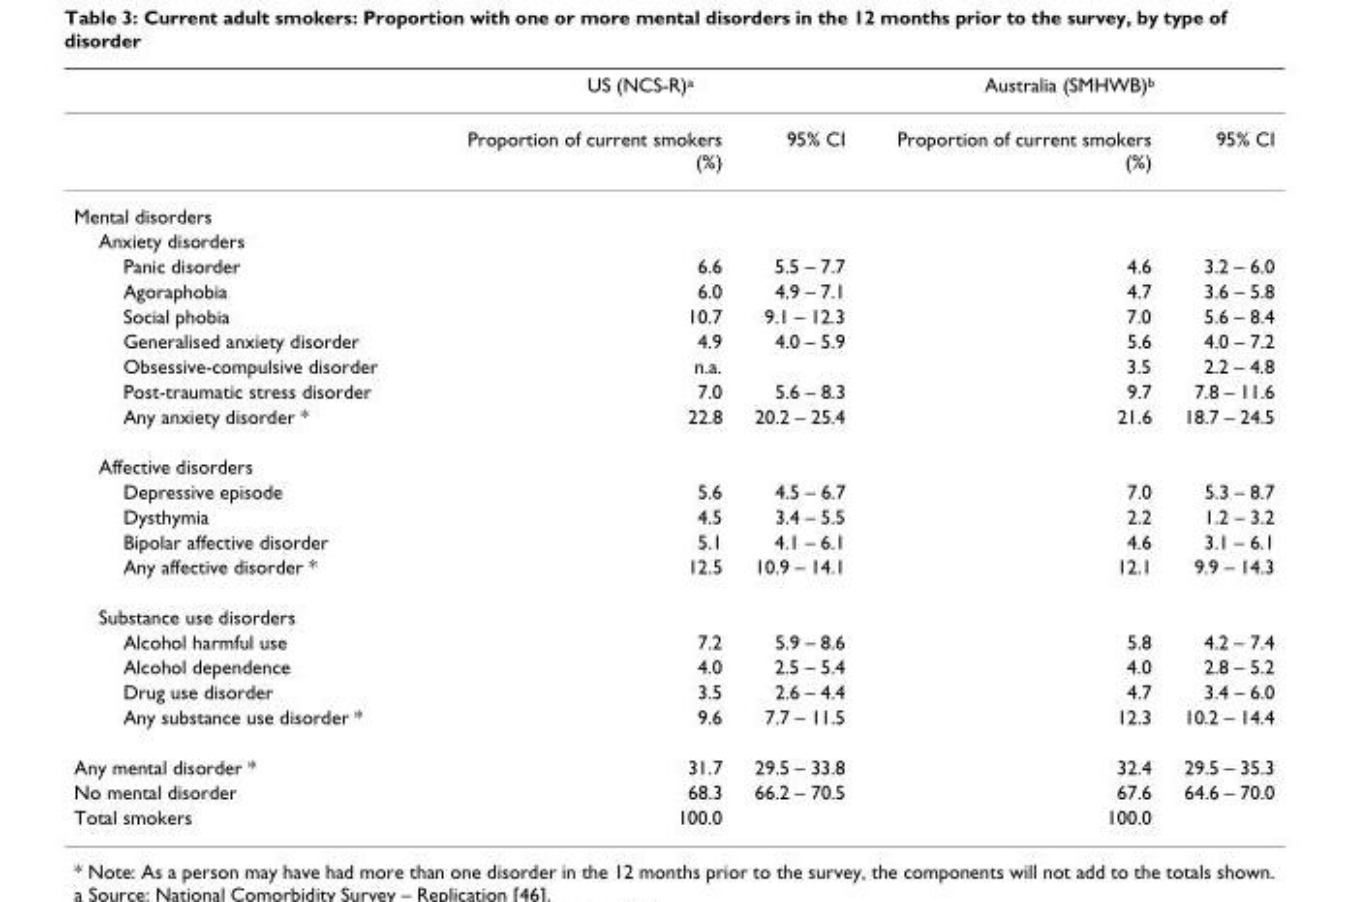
<table><thead><tr><td rowspan="2"></td><td colspan="2">US (NCS-R)<sup>a</sup></td><td colspan="2">Australia (SMHWB)<sup>b</sup></td></tr><tr><td>Proportion of current smokers (%)</td><td>95% CI</td><td>Proportion of current smokers (%)</td><td>95% CI</td></tr></thead><tbody><tr><td colspan="5">Mental disorders</td></tr><tr><td colspan="5">Anxiety disorders</td></tr><tr><td>Panic disorder</td><td>6.6</td><td>5.5 – 7.7</td><td>4.6</td><td>3.2 – 6.0</td></tr><tr><td>Agoraphobia</td><td>6.0</td><td>4.9 – 7.1</td><td>4.7</td><td>3.6 – 5.8</td></tr><tr><td>Social phobia</td><td>10.7</td><td>9.1 – 12.3</td><td>7.0</td><td>5.6 – 8.4</td></tr><tr><td>Generalised anxiety disorder</td><td>4.9</td><td>4.0 – 5.9</td><td>5.6</td><td>4.0 – 7.2</td></tr><tr><td>Obsessive-compulsive disorder</td><td>n.a.</td><td></td><td>3.5</td><td>2.2 – 4.8</td></tr><tr><td>Post-traumatic stress disorder</td><td>7.0</td><td>5.6 – 8.3</td><td>9.7</td><td>7.8 – 11.6</td></tr><tr><td>Any anxiety disorder *</td><td>22.8</td><td>20.2 – 25.4</td><td>21.6</td><td>18.7 – 24.5</td></tr><tr><td colspan="5">Affective disorders</td></tr><tr><td>Depressive episode</td><td>5.6</td><td>4.5 – 6.7</td><td>7.0</td><td>5.3 – 8.7</td></tr><tr><td>Dysthymia</td><td>4.5</td><td>3.4 – 5.5</td><td>2.2</td><td>1.2 – 3.2</td></tr><tr><td>Bipolar affective disorder</td><td>5.1</td><td>4.1 – 6.1</td><td>4.6</td><td>3.1 – 6.1</td></tr><tr><td>Any affective disorder *</td><td>12.5</td><td>10.9 – 14.1</td><td>12.1</td><td>9.9 – 14.3</td></tr><tr><td colspan="5">Substance use disorders</td></tr><tr><td>Alcohol harmful use</td><td>7.2</td><td>5.9 – 8.6</td><td>5.8</td><td>4.2 – 7.4</td></tr><tr><td>Alcohol dependence</td><td>4.0</td><td>2.5 – 5.4</td><td>4.0</td><td>2.8 – 5.2</td></tr><tr><td>Drug use disorder</td><td>3.5</td><td>2.6 – 4.4</td><td>4.7</td><td>3.4 – 6.0</td></tr><tr><td>Any substance use disorder *</td><td>9.6</td><td>7.7 – 11.5</td><td>12.3</td><td>10.2 – 14.4</td></tr><tr><td>Any mental disorder *</td><td>31.7</td><td>29.5 – 33.8</td><td>32.4</td><td>29.5 – 35.3</td></tr><tr><td>No mental disorder</td><td>68.3</td><td>66.2 – 70.5</td><td>67.6</td><td>64.6 – 70.0</td></tr><tr><td>Total smokers</td><td>100.0</td><td></td><td>100.0</td><td></td></tr></tbody></table>